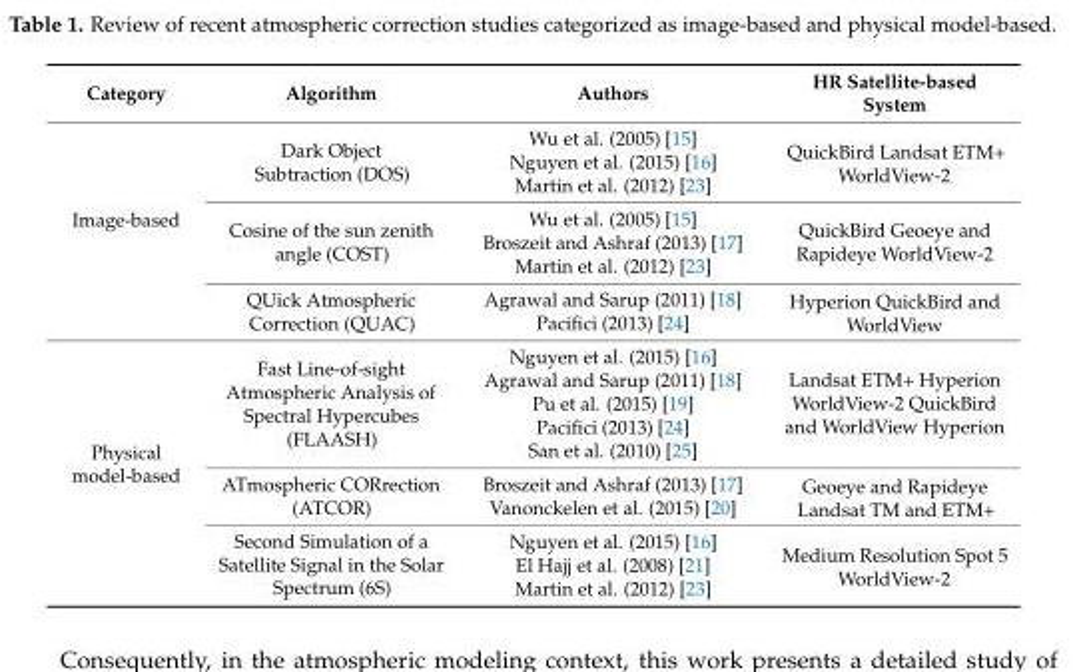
<table><thead><tr><td>Category</td><td>Algorithm</td><td>Authors</td><td>HR Satellite-based System</td></tr></thead><tbody><tr><td rowspan="8">Image-based</td><td rowspan="3">Dark Object Subtraction (DOS)</td><td>Wu et al. (2005) [15]</td><td rowspan="3">QuickBird Landsat ETM+ WorldView-2</td></tr><tr><td>Nguyen et al. (2015) [16]</td></tr><tr><td>Martin et al. (2012) [23]</td></tr><tr><td rowspan="3">Cosine of the sun zenith angle (COST)</td><td>Wu et al. (2005) [15]</td><td rowspan="3">QuickBird Geoeye and Rapideye WorldView-2</td></tr><tr><td>Broszeit and Ashraf (2013) [17]</td></tr><tr><td>Martin et al. (2012) [23]</td></tr><tr><td rowspan="2">QUick Atmospheric Correction (QUAC)</td><td>Agrawal and Sarup (2011) [18]</td><td rowspan="2">Hyperion QuickBird and WorldView</td></tr><tr><td>Pacifici (2013) [24]</td></tr><tr><td rowspan="10">Physical model-based</td><td rowspan="5">Fast Line-of-sight Atmospheric Analysis of Spectral Hypercubes (FLAASH)</td><td>Nguyen et al. (2015) [16]</td><td rowspan="5">Landsat ETM+ Hyperion WorldView-2 QuickBird and WorldView Hyperion</td></tr><tr><td>Agrawal and Sarup (2011) [18]</td></tr><tr><td>Pu et al. (2015) [19]</td></tr><tr><td>Pacifici (2013) [24]</td></tr><tr><td>San et al. (2010) [25]</td></tr><tr><td rowspan="2">ATmospheric CORrection (ATCOR)</td><td>Broszeit and Ashraf (2013) [17]</td><td rowspan="2">Geoeye and Rapideye Landsat TM and ETM+</td></tr><tr><td>Vanonckelen et al. (2015) [20]</td></tr><tr><td rowspan="3">Second Simulation of a Satellite Signal in the Solar Spectrum (6S)</td><td>Nguyen et al. (2015) [16]</td><td rowspan="3">Medium Resolution Spot 5 WorldView-2</td></tr><tr><td>El Hajj et al. (2008) [21]</td></tr><tr><td>Martin et al. (2012) [23]</td></tr></tbody></table>